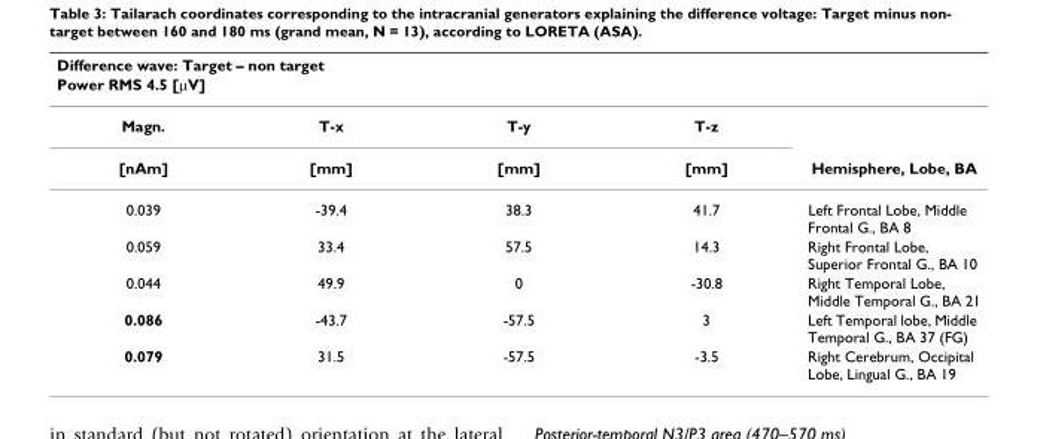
<table><thead><tr><td rowspan="2" colspan="5">Difference wave: Target – non target Power RMS 4.5 [μV]</td></tr><tr></tr><tr><td>Magn.</td><td>T-x</td><td>T-y</td><td>T-z</td><td></td></tr></thead><tbody><tr><td>[nAm]</td><td>[mm]</td><td>[mm]</td><td>[mm]</td><td>Hemisphere, Lobe, BA</td></tr><tr><td>0.039</td><td>-39.4</td><td>38.3</td><td>41.7</td><td>Left Frontal Lobe, Middle Frontal G., BA 8</td></tr><tr><td>0.059</td><td>33.4</td><td>57.5</td><td>14.3</td><td>Right Frontal Lobe, Superior Frontal G., BA 10</td></tr><tr><td>0.044</td><td>49.9</td><td>0</td><td>-30.8</td><td>Right Temporal Lobe, Middle Temporal G., BA 21</td></tr><tr><td>0.086</td><td>-43.7</td><td>-57.5</td><td>3</td><td>Left Temporal lobe, Middle Temporal G., BA 37 (FG)</td></tr><tr><td>0.079</td><td>31.5</td><td>-57.5</td><td>-3.5</td><td>Right Cerebrum, Occipital Lobe, Lingual G., BA 19</td></tr></tbody></table>